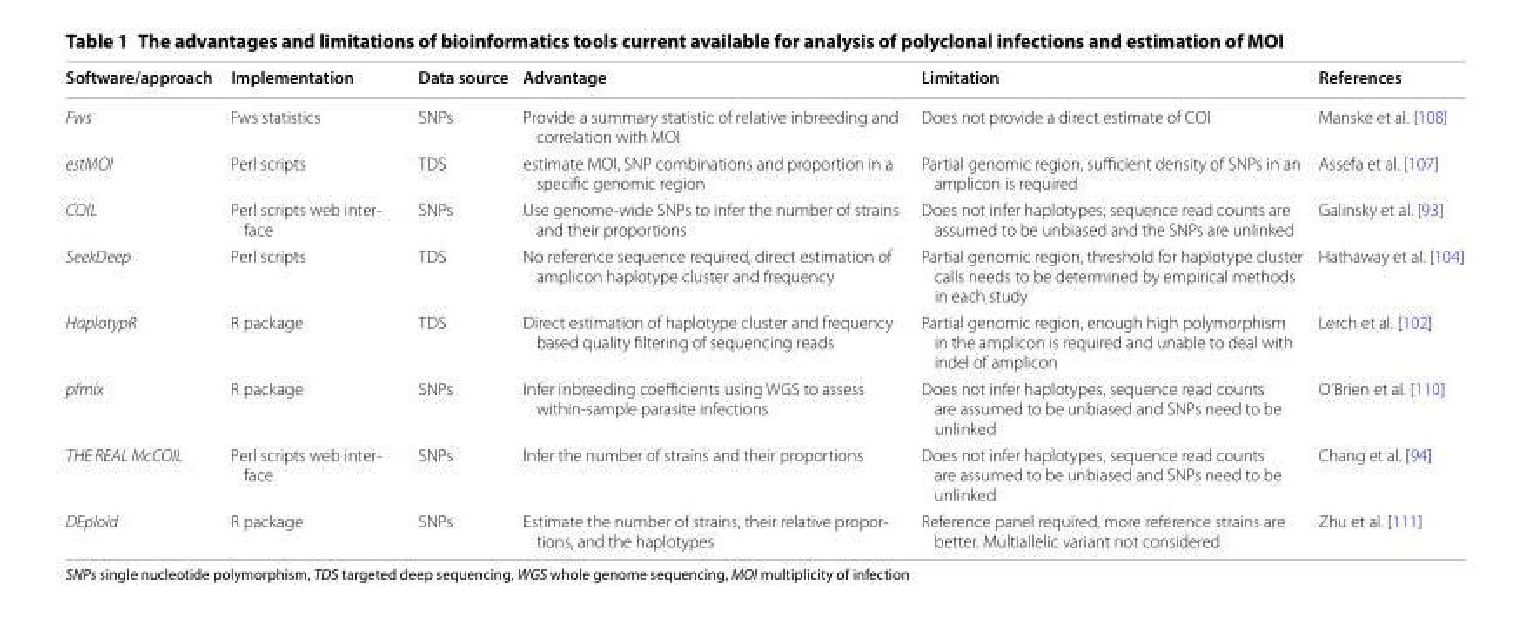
<table><thead><tr><td>Software/approach</td><td>Implementation</td><td>Data source</td><td>Advantage</td><td>Limitation</td><td>References</td></tr></thead><tbody><tr><td>Fws</td><td>Fws statistics</td><td>SNPs</td><td>Provide a summary statistic of relative inbreeding and correlation with MOI</td><td>Does not provide a direct estimate of COI</td><td>Manske et al. [108]</td></tr><tr><td>estMOI</td><td>Perl scripts</td><td>TDS</td><td>estimate MOI, SNP combinations and proportion in a specific genomic region</td><td>Partial genomic region, sufficient density of SNPs in an amplicon is required</td><td>Assefa et al. [107]</td></tr><tr><td>COIL</td><td>Perl scripts web inter- face</td><td>SNPs</td><td>Use genome-wide SNPs to infer the number of strains and their proportions</td><td>Does not infer haplotypes; sequence read counts are assumed to be unbiased and the SNPs are unlinked</td><td>Galinsky et al. [93]</td></tr><tr><td>SeekDeep</td><td>Perl scripts</td><td>TDS</td><td>No reference sequence required, direct estimation of amplicon haplotype cluster and frequency</td><td>Partial genomic region, threshold for haplotype cluster calls needs to be determined by empirical methods in each study</td><td>Hathaway et al. [104]</td></tr><tr><td>HaplotypR</td><td>R package</td><td>TDS</td><td>Direct estimation of haplotype cluster and frequency based quality filtering of sequencing reads</td><td>Partial genomic region, enough high polymorphism in the amplicon is required and unable to deal with indel of amplicon</td><td>Lerch et al. [102]</td></tr><tr><td>pfmix</td><td>R package</td><td>SNPs</td><td>Infer inbreeding coefficients using WGS to assess within-sample parasite infections</td><td>Does not infer haplotypes, sequence read counts are assumed to be unbiased and SNPs need to be unlinked</td><td>O’Brien et al. [110]</td></tr><tr><td>THE REAL McCOIL</td><td>Perl scripts web inter- face</td><td>SNPs</td><td>Infer the number of strains and their proportions</td><td>Does not infer haplotypes, sequence read counts are assumed to be unbiased and SNPs need to be unlinked</td><td>Chang et al. [94]</td></tr><tr><td>DEploid</td><td>R package</td><td>SNPs</td><td>Estimate the number of strains, their relative propor- tions, and the haplotypes</td><td>Reference panel required, more reference strains are better. Multiallelic variant not considered</td><td>Zhu et al. [111]</td></tr></tbody></table>